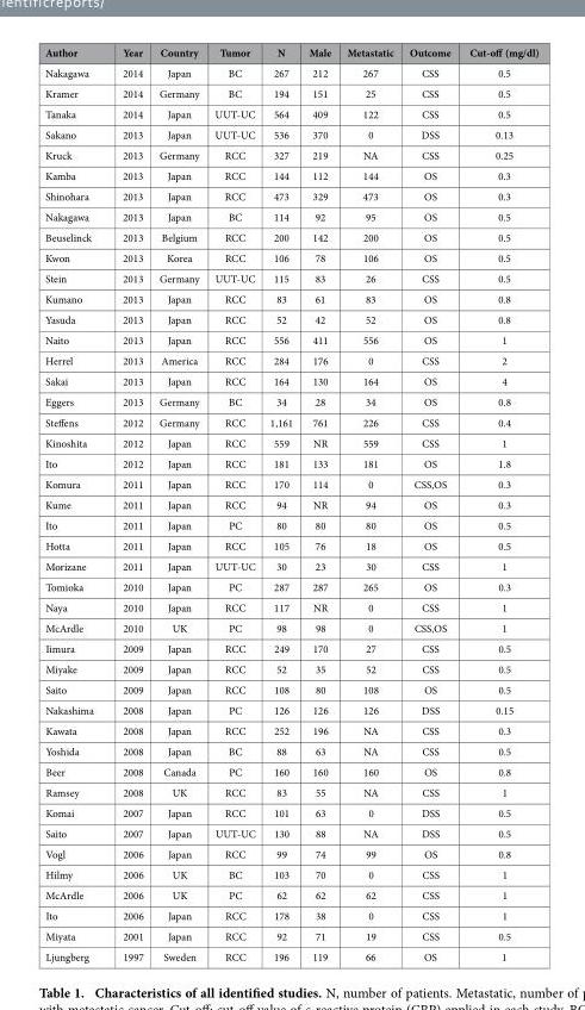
<table><thead><tr><td>Author</td><td>Year</td><td>Country</td><td>Tumor</td><td>N</td><td>Male</td><td>Metastatic</td><td>Outcome</td><td>Cut-off (mg/dl)</td></tr></thead><tbody><tr><td>Nakagawa</td><td>2014</td><td>Japan</td><td>BC</td><td>267</td><td>212</td><td>267</td><td>CSS</td><td>0.5</td></tr><tr><td>Kramer</td><td>2014</td><td>Germany</td><td>BC</td><td>194</td><td>151</td><td>25</td><td>CSS</td><td>0.5</td></tr><tr><td>Tanaka</td><td>2014</td><td>Japan</td><td>UUT-UC</td><td>564</td><td>409</td><td>122</td><td>CSS</td><td>0.5</td></tr><tr><td>Sakano</td><td>2013</td><td>Japan</td><td>UUT-UC</td><td>536</td><td>370</td><td>0</td><td>DSS</td><td>0.13</td></tr><tr><td>Kruck</td><td>2013</td><td>Germany</td><td>RCC</td><td>327</td><td>219</td><td>NA</td><td>CSS</td><td>0.25</td></tr><tr><td>Kamba</td><td>2013</td><td>Japan</td><td>RCC</td><td>144</td><td>112</td><td>144</td><td>OS</td><td>0.3</td></tr><tr><td>Shinohara</td><td>2013</td><td>Japan</td><td>RCC</td><td>473</td><td>329</td><td>473</td><td>OS</td><td>0.3</td></tr><tr><td>Nakagawa</td><td>2013</td><td>Japan</td><td>BC</td><td>114</td><td>92</td><td>95</td><td>OS</td><td>0.5</td></tr><tr><td>Beuselinck</td><td>2013</td><td>Belgium</td><td>RCC</td><td>200</td><td>142</td><td>200</td><td>OS</td><td>0.5</td></tr><tr><td>Kwon</td><td>2013</td><td>Korea</td><td>RCC</td><td>106</td><td>78</td><td>106</td><td>OS</td><td>0.5</td></tr><tr><td>Stein</td><td>2013</td><td>Germany</td><td>UUT-UC</td><td>115</td><td>83</td><td>26</td><td>CSS</td><td>0.5</td></tr><tr><td>Kumano</td><td>2013</td><td>Japan</td><td>RCC</td><td>83</td><td>61</td><td>83</td><td>OS</td><td>0.8</td></tr><tr><td>Yasuda</td><td>2013</td><td>Japan</td><td>RCC</td><td>52</td><td>42</td><td>52</td><td>OS</td><td>0.8</td></tr><tr><td>Naito</td><td>2013</td><td>Japan</td><td>RCC</td><td>556</td><td>411</td><td>556</td><td>OS</td><td>1</td></tr><tr><td>Herrel</td><td>2013</td><td>America</td><td>RCC</td><td>284</td><td>176</td><td>0</td><td>CSS</td><td>2</td></tr><tr><td>Sakai</td><td>2013</td><td>Japan</td><td>RCC</td><td>164</td><td>130</td><td>164</td><td>OS</td><td>4</td></tr><tr><td>Eggers</td><td>2013</td><td>Germany</td><td>BC</td><td>34</td><td>28</td><td>34</td><td>OS</td><td>0.8</td></tr><tr><td>Steffens</td><td>2012</td><td>Germany</td><td>RCC</td><td>1,161</td><td>761</td><td>226</td><td>CSS</td><td>0.4</td></tr><tr><td>Kinoshita</td><td>2012</td><td>Japan</td><td>RCC</td><td>559</td><td>NR</td><td>559</td><td>CSS</td><td>1</td></tr><tr><td>Ito</td><td>2012</td><td>Japan</td><td>RCC</td><td>181</td><td>133</td><td>181</td><td>OS</td><td>1.8</td></tr><tr><td>Komura</td><td>2011</td><td>Japan</td><td>RCC</td><td>170</td><td>114</td><td>0</td><td>CSS,OS</td><td>0.3</td></tr><tr><td>Kume</td><td>2011</td><td>Japan</td><td>RCC</td><td>94</td><td>NR</td><td>94</td><td>OS</td><td>0.3</td></tr><tr><td>Ito</td><td>2011</td><td>Japan</td><td>PC</td><td>80</td><td>80</td><td>80</td><td>OS</td><td>0.5</td></tr><tr><td>Hotta</td><td>2011</td><td>Japan</td><td>RCC</td><td>105</td><td>76</td><td>18</td><td>OS</td><td>0.5</td></tr><tr><td>Morizane</td><td>2011</td><td>Japan</td><td>UUT-UC</td><td>30</td><td>23</td><td>30</td><td>CSS</td><td>1</td></tr><tr><td>Tomioka</td><td>2010</td><td>Japan</td><td>PC</td><td>287</td><td>287</td><td>265</td><td>OS</td><td>0.3</td></tr><tr><td>Naya</td><td>2010</td><td>Japan</td><td>RCC</td><td>117</td><td>NR</td><td>0</td><td>CSS</td><td>1</td></tr><tr><td>McArdle</td><td>2010</td><td>UK</td><td>PC</td><td>98</td><td>98</td><td>0</td><td>CSS,OS</td><td>1</td></tr><tr><td>Iimura</td><td>2009</td><td>Japan</td><td>RCC</td><td>249</td><td>170</td><td>27</td><td>CSS</td><td>0.5</td></tr><tr><td>Miyake</td><td>2009</td><td>Japan</td><td>RCC</td><td>52</td><td>35</td><td>52</td><td>CSS</td><td>0.5</td></tr><tr><td>Saito</td><td>2009</td><td>Japan</td><td>RCC</td><td>108</td><td>80</td><td>108</td><td>OS</td><td>0.5</td></tr><tr><td>Nakashima</td><td>2008</td><td>Japan</td><td>PC</td><td>126</td><td>126</td><td>126</td><td>DSS</td><td>0.15</td></tr><tr><td>Kawata</td><td>2008</td><td>Japan</td><td>RCC</td><td>252</td><td>196</td><td>NA</td><td>CSS</td><td>0.3</td></tr><tr><td>Yoshida</td><td>2008</td><td>Japan</td><td>BC</td><td>88</td><td>63</td><td>NA</td><td>CSS</td><td>0.5</td></tr><tr><td>Beer</td><td>2008</td><td>Canada</td><td>PC</td><td>160</td><td>160</td><td>160</td><td>OS</td><td>0.8</td></tr><tr><td>Ramsey</td><td>2008</td><td>UK</td><td>RCC</td><td>83</td><td>55</td><td>NA</td><td>CSS</td><td>1</td></tr><tr><td>Komai</td><td>2007</td><td>Japan</td><td>RCC</td><td>101</td><td>63</td><td>0</td><td>DSS</td><td>0.5</td></tr><tr><td>Saito</td><td>2007</td><td>Japan</td><td>UUT-UC</td><td>130</td><td>88</td><td>NA</td><td>DSS</td><td>0.5</td></tr><tr><td>Vogl</td><td>2006</td><td>Japan</td><td>RCC</td><td>99</td><td>74</td><td>99</td><td>OS</td><td>0.8</td></tr><tr><td>Hilmy</td><td>2006</td><td>UK</td><td>BC</td><td>103</td><td>70</td><td>0</td><td>CSS</td><td>1</td></tr><tr><td>McArdle</td><td>2006</td><td>UK</td><td>PC</td><td>62</td><td>62</td><td>62</td><td>CSS</td><td>1</td></tr><tr><td>Ito</td><td>2006</td><td>Japan</td><td>RCC</td><td>178</td><td>38</td><td>0</td><td>CSS</td><td>1</td></tr><tr><td>Miyata</td><td>2001</td><td>Japan</td><td>RCC</td><td>92</td><td>71</td><td>19</td><td>CSS</td><td>0.5</td></tr><tr><td>Ljungberg</td><td>1997</td><td>Sweden</td><td>RCC</td><td>196</td><td>119</td><td>66</td><td>OS</td><td>1</td></tr></tbody></table>